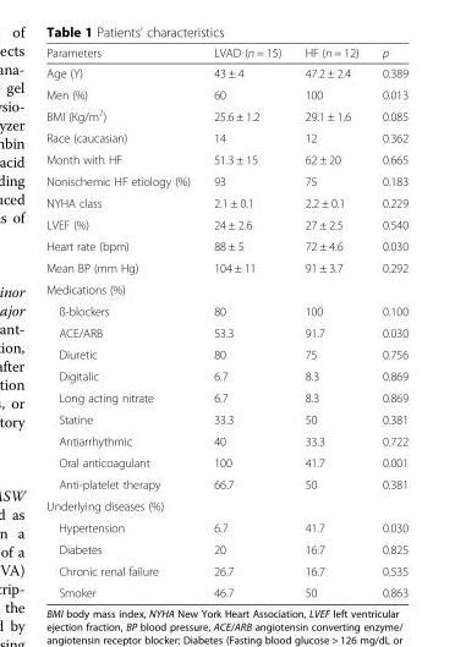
<table><thead><tr><td>Parameters</td><td>LVAD (n = 15)</td><td>HF (n = 12)</td><td>p</td></tr></thead><tbody><tr><td>Age (Y)</td><td>43 ± 4</td><td>47.2 ± 2.4</td><td>0.389</td></tr><tr><td>Men (%)</td><td>60</td><td>100</td><td>0.013</td></tr><tr><td>BMI (Kg/m<sup>2</sup>)</td><td>25.6 ± 1.2</td><td>29.1 ± 1.6</td><td>0.085</td></tr><tr><td>Race (caucasian)</td><td>14</td><td>12</td><td>0.362</td></tr><tr><td>Month with HF</td><td>51.3 ± 15</td><td>62 ± 20</td><td>0.665</td></tr><tr><td>Nonischemic HF etiology (%)</td><td>93</td><td>75</td><td>0.183</td></tr><tr><td>NYHA class</td><td>2.1 ± 0.1</td><td>2.2 ± 0.1</td><td>0.229</td></tr><tr><td>LVEF (%)</td><td>24 ± 2.6</td><td>27 ± 2.5</td><td>0.540</td></tr><tr><td>Heart rate (bpm)</td><td>88 ± 5</td><td>72 ± 4.6</td><td>0.030</td></tr><tr><td>Mean BP (mm Hg)</td><td>104 ± 11</td><td>91 ± 3.7</td><td>0.292</td></tr><tr><td colspan="4">Medications (%)</td></tr><tr><td>ß-blockers</td><td>80</td><td>100</td><td>0.100</td></tr><tr><td>ACE/ARB</td><td>53.3</td><td>91.7</td><td>0.030</td></tr><tr><td>Diuretic</td><td>80</td><td>75</td><td>0.756</td></tr><tr><td>Digitalic</td><td>6.7</td><td>8.3</td><td>0.869</td></tr><tr><td>Long acting nitrate</td><td>6.7</td><td>8.3</td><td>0.869</td></tr><tr><td>Statine</td><td>33.3</td><td>50</td><td>0.381</td></tr><tr><td>Antiarrhythmic</td><td>40</td><td>33.3</td><td>0.722</td></tr><tr><td>Oral anticoagulant</td><td>100</td><td>41.7</td><td>0.001</td></tr><tr><td>Anti-platelet therapy</td><td>66.7</td><td>50</td><td>0.381</td></tr><tr><td colspan="4">Underlying diseases (%)</td></tr><tr><td>Hypertension</td><td>6.7</td><td>41.7</td><td>0.030</td></tr><tr><td>Diabetes</td><td>20</td><td>16.7</td><td>0.825</td></tr><tr><td>Chronic renal failure</td><td>26.7</td><td>16.7</td><td>0.535</td></tr><tr><td>Smoker</td><td>46.7</td><td>50</td><td>0.863</td></tr></tbody></table>